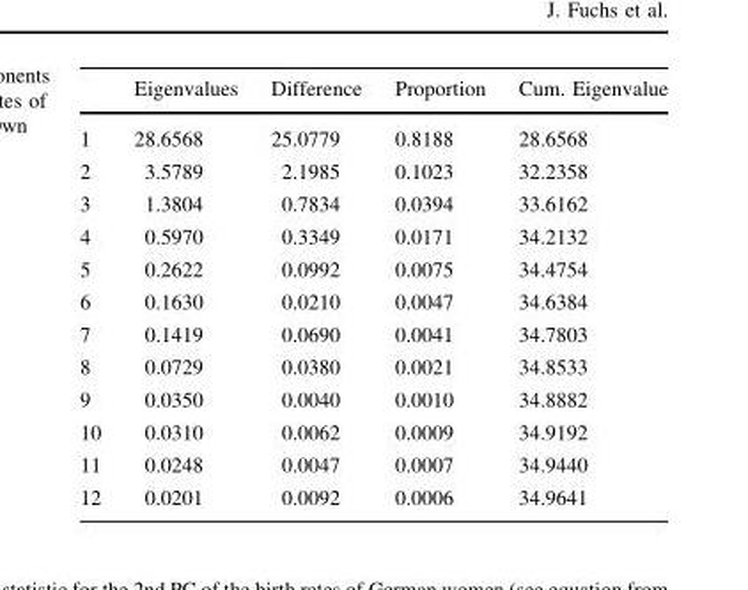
<table><thead><tr><td></td><td>Eigenvalues</td><td>Difference</td><td>Proportion</td><td>Cum. Eigenvalue</td></tr></thead><tbody><tr><td>1</td><td>28.6568</td><td>25.0779</td><td>0.8188</td><td>28.6568</td></tr><tr><td>2</td><td>3.5789</td><td>2.1985</td><td>0.1023</td><td>32.2358</td></tr><tr><td>3</td><td>1.3804</td><td>0.7834</td><td>0.0394</td><td>33.6162</td></tr><tr><td>4</td><td>0.5970</td><td>0.3349</td><td>0.0171</td><td>34.2132</td></tr><tr><td>5</td><td>0.2622</td><td>0.0992</td><td>0.0075</td><td>34.4754</td></tr><tr><td>6</td><td>0.1630</td><td>0.0210</td><td>0.0047</td><td>34.6384</td></tr><tr><td>7</td><td>0.1419</td><td>0.0690</td><td>0.0041</td><td>34.7803</td></tr><tr><td>8</td><td>0.0729</td><td>0.0380</td><td>0.0021</td><td>34.8533</td></tr><tr><td>9</td><td>0.0350</td><td>0.0040</td><td>0.0010</td><td>34.8882</td></tr><tr><td>10</td><td>0.0310</td><td>0.0062</td><td>0.0009</td><td>34.9192</td></tr><tr><td>11</td><td>0.0248</td><td>0.0047</td><td>0.0007</td><td>34.9440</td></tr><tr><td>12</td><td>0.0201</td><td>0.0092</td><td>0.0006</td><td>34.9641</td></tr></tbody></table>